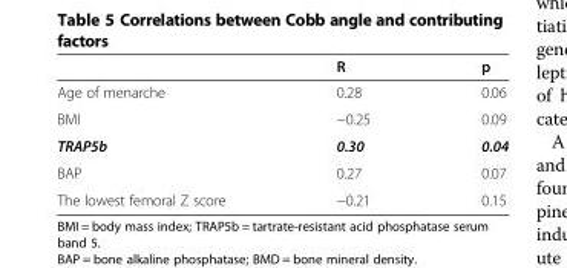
<table><thead><tr><td></td><td>R</td><td>p</td></tr></thead><tbody><tr><td>Age of menarche</td><td>0.28</td><td>0.06</td></tr><tr><td>BMI</td><td>−0.25</td><td>0.09</td></tr><tr><td>TRAP5b</td><td>0.30</td><td>0.04</td></tr><tr><td>BAP</td><td>0.27</td><td>0.07</td></tr><tr><td>The lowest femoral Z score</td><td>−0.21</td><td>0.15</td></tr></tbody></table>